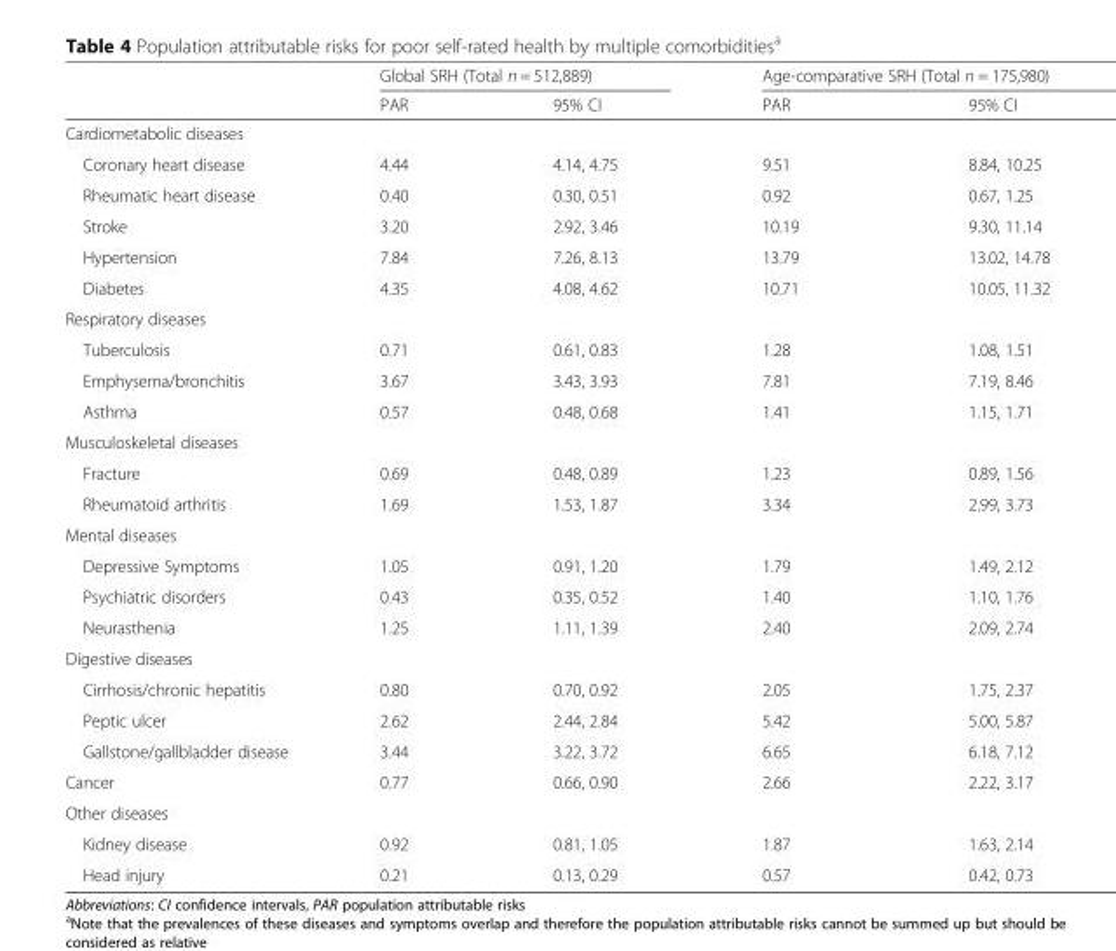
<table><thead><tr><td rowspan="2"></td><td colspan="2">Global SRH (Total n = 512,889)</td><td colspan="2">Age-comparative SRH (Total n = 175,980)</td></tr><tr><td>PAR</td><td>95% CI</td><td>PAR</td><td>95% CI</td></tr></thead><tbody><tr><td colspan="5">Cardiometabolic diseases</td></tr><tr><td>Coronary heart disease</td><td>4.44</td><td>4.14, 4.75</td><td>9.51</td><td>8.84, 10.25</td></tr><tr><td>Rheumatic heart disease</td><td>0.40</td><td>0.30, 0.51</td><td>0.92</td><td>0.67, 1.25</td></tr><tr><td>Stroke</td><td>3.20</td><td>2.92, 3.46</td><td>10.19</td><td>9.30, 11.14</td></tr><tr><td>Hypertension</td><td>7.84</td><td>7.26, 8.13</td><td>13.79</td><td>13.02, 14.78</td></tr><tr><td>Diabetes</td><td>4.35</td><td>4.08, 4.62</td><td>10.71</td><td>10.05, 11.32</td></tr><tr><td colspan="5">Respiratory diseases</td></tr><tr><td>Tuberculosis</td><td>0.71</td><td>0.61, 0.83</td><td>1.28</td><td>1.08, 1.51</td></tr><tr><td>Emphysema/bronchitis</td><td>3.67</td><td>3.43, 3.93</td><td>7.81</td><td>7.19, 8.46</td></tr><tr><td>Asthma</td><td>0.57</td><td>0.48, 0.68</td><td>1.41</td><td>1.15, 1.71</td></tr><tr><td colspan="5">Musculoskeletal diseases</td></tr><tr><td>Fracture</td><td>0.69</td><td>0.48, 0.89</td><td>1.23</td><td>0.89, 1.56</td></tr><tr><td>Rheumatoid arthritis</td><td>1.69</td><td>1.53, 1.87</td><td>3.34</td><td>2.99, 3.73</td></tr><tr><td colspan="5">Mental diseases</td></tr><tr><td>Depressive Symptoms</td><td>1.05</td><td>0.91, 1.20</td><td>1.79</td><td>1.49, 2.12</td></tr><tr><td>Psychiatric disorders</td><td>0.43</td><td>0.35, 0.52</td><td>1.40</td><td>1.10, 1.76</td></tr><tr><td>Neurasthenia</td><td>1.25</td><td>1.11, 1.39</td><td>2.40</td><td>2.09, 2.74</td></tr><tr><td colspan="5">Digestive diseases</td></tr><tr><td>Cirrhosis/chronic hepatitis</td><td>0.80</td><td>0.70, 0.92</td><td>2.05</td><td>1.75, 2.37</td></tr><tr><td>Peptic ulcer</td><td>2.62</td><td>2.44, 2.84</td><td>5.42</td><td>5.00, 5.87</td></tr><tr><td>Gallstone/gallbladder disease</td><td>3.44</td><td>3.22, 3.72</td><td>6.65</td><td>6.18, 7.12</td></tr><tr><td>Cancer</td><td>0.77</td><td>0.66, 0.90</td><td>2.66</td><td>2.22, 3.17</td></tr><tr><td colspan="5">Other diseases</td></tr><tr><td>Kidney disease</td><td>0.92</td><td>0.81, 1.05</td><td>1.87</td><td>1.63, 2.14</td></tr><tr><td>Head injury</td><td>0.21</td><td>0.13, 0.29</td><td>0.57</td><td>0.42, 0.73</td></tr></tbody></table>